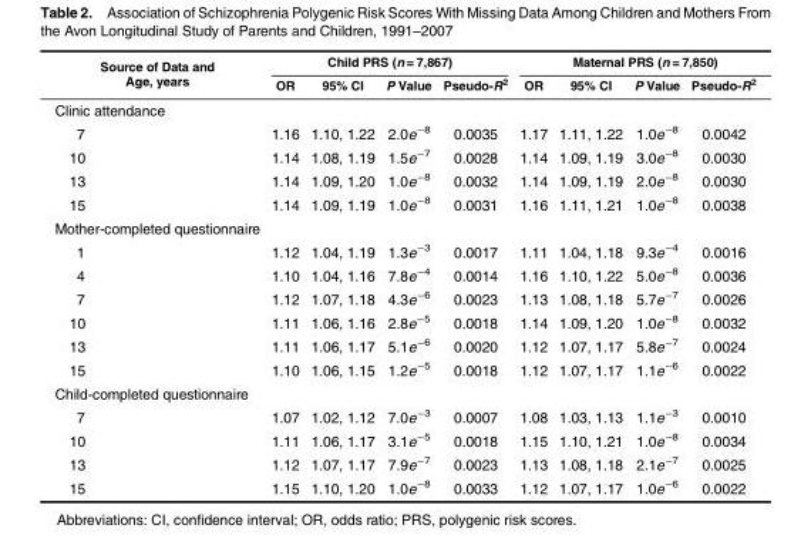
<table><thead><tr><td rowspan="2">Source of Data and Age, years</td><td colspan="4">Child PRS (n = 7,867)</td><td colspan="4">Maternal PRS (n = 7,850)</td></tr><tr><td>OR</td><td>95% CI</td><td>P Value</td><td>Pseudo-R<sup>2</sup></td><td>OR</td><td>95% CI</td><td>P Value</td><td>Pseudo-R<sup>2</sup></td></tr></thead><tbody><tr><td colspan="9">Clinic attendance</td></tr><tr><td>7</td><td>1.16</td><td>1.10, 1.22</td><td>2.0e<sup>−8</sup></td><td>0.0035</td><td>1.17</td><td>1.11, 1.22</td><td>1.0e<sup>−8</sup></td><td>0.0042</td></tr><tr><td>10</td><td>1.14</td><td>1.08, 1.19</td><td>1.5e<sup>−7</sup></td><td>0.0028</td><td>1.14</td><td>1.09, 1.19</td><td>3.0e<sup>−8</sup></td><td>0.0030</td></tr><tr><td>13</td><td>1.14</td><td>1.09, 1.20</td><td>1.0e<sup>−8</sup></td><td>0.0032</td><td>1.14</td><td>1.09, 1.19</td><td>2.0e<sup>−8</sup></td><td>0.0030</td></tr><tr><td>15</td><td>1.14</td><td>1.09, 1.19</td><td>1.0e<sup>−8</sup></td><td>0.0031</td><td>1.16</td><td>1.11, 1.21</td><td>1.0e<sup>−8</sup></td><td>0.0038</td></tr><tr><td colspan="9">Mother-completed questionnaire</td></tr><tr><td>1</td><td>1.12</td><td>1.04, 1.19</td><td>1.3e<sup>−3</sup></td><td>0.0017</td><td>1.11</td><td>1.04, 1.18</td><td>9.3e<sup>−4</sup></td><td>0.0016</td></tr><tr><td>4</td><td>1.10</td><td>1.04, 1.16</td><td>7.8e<sup>−4</sup></td><td>0.0014</td><td>1.16</td><td>1.10, 1.22</td><td>5.0e<sup>−8</sup></td><td>0.0036</td></tr><tr><td>7</td><td>1.12</td><td>1.07, 1.18</td><td>4.3e<sup>−6</sup></td><td>0.0023</td><td>1.13</td><td>1.08, 1.18</td><td>5.7e<sup>−7</sup></td><td>0.0026</td></tr><tr><td>10</td><td>1.11</td><td>1.06, 1.16</td><td>2.8e<sup>−5</sup></td><td>0.0018</td><td>1.14</td><td>1.09, 1.20</td><td>1.0e<sup>−8</sup></td><td>0.0032</td></tr><tr><td>13</td><td>1.11</td><td>1.06, 1.17</td><td>5.1e<sup>−6</sup></td><td>0.0020</td><td>1.12</td><td>1.07, 1.17</td><td>5.8e<sup>−7</sup></td><td>0.0024</td></tr><tr><td>15</td><td>1.10</td><td>1.06, 1.15</td><td>1.2e<sup>−5</sup></td><td>0.0018</td><td>1.12</td><td>1.07, 1.17</td><td>1.1e<sup>−6</sup></td><td>0.0022</td></tr><tr><td colspan="9">Child-completed questionnaire</td></tr><tr><td>7</td><td>1.07</td><td>1.02, 1.12</td><td>7.0e<sup>−3</sup></td><td>0.0007</td><td>1.08</td><td>1.03, 1.13</td><td>1.1e<sup>−3</sup></td><td>0.0010</td></tr><tr><td>10</td><td>1.11</td><td>1.06, 1.17</td><td>3.1e<sup>−5</sup></td><td>0.0018</td><td>1.15</td><td>1.10, 1.21</td><td>1.0e<sup>−8</sup></td><td>0.0034</td></tr><tr><td>13</td><td>1.12</td><td>1.07, 1.17</td><td>7.9e<sup>−7</sup></td><td>0.0023</td><td>1.13</td><td>1.08, 1.18</td><td>2.1e<sup>−7</sup></td><td>0.0025</td></tr><tr><td>15</td><td>1.15</td><td>1.10, 1.20</td><td>1.0e<sup>−8</sup></td><td>0.0033</td><td>1.12</td><td>1.07, 1.17</td><td>1.0e<sup>−6</sup></td><td>0.0022</td></tr></tbody></table>